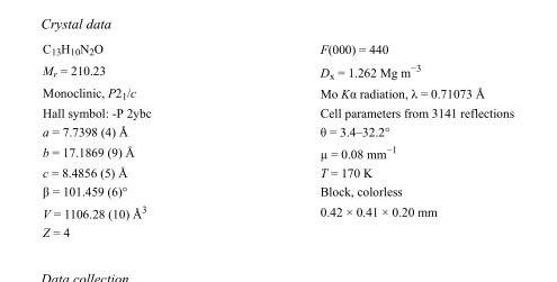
<table><tbody><tr><td>C<sub>13</sub>H<sub>10</sub>N<sub>2</sub>O</td><td>F(000) = 440</td></tr><tr><td>M<sub>r</sub> = 210.23</td><td>D<sub>x</sub> = 1.262 Mg m<sup>−3</sup></td></tr><tr><td>Monoclinic, P2<sub>1</sub>/c</td><td>Mo Kα radiation, λ = 0.71073 Å</td></tr><tr><td>Hall symbol: -P 2ybc</td><td>Cell parameters from 3141 reflections</td></tr><tr><td>a = 7.7398 (4) Å</td><td>θ = 3.4–32.2°</td></tr><tr><td>b = 17.1869 (9) Å</td><td>µ = 0.08 mm<sup>−1</sup></td></tr><tr><td>c = 8.4856 (5) Å</td><td>T = 170 K</td></tr><tr><td>β = 101.459 (6)°</td><td>Block, colorless</td></tr><tr><td>V = 1106.28 (10) Å<sup>3</sup></td><td>0.42 × 0.41 × 0.20 mm</td></tr><tr><td>Z = 4</td><td></td></tr></tbody></table>